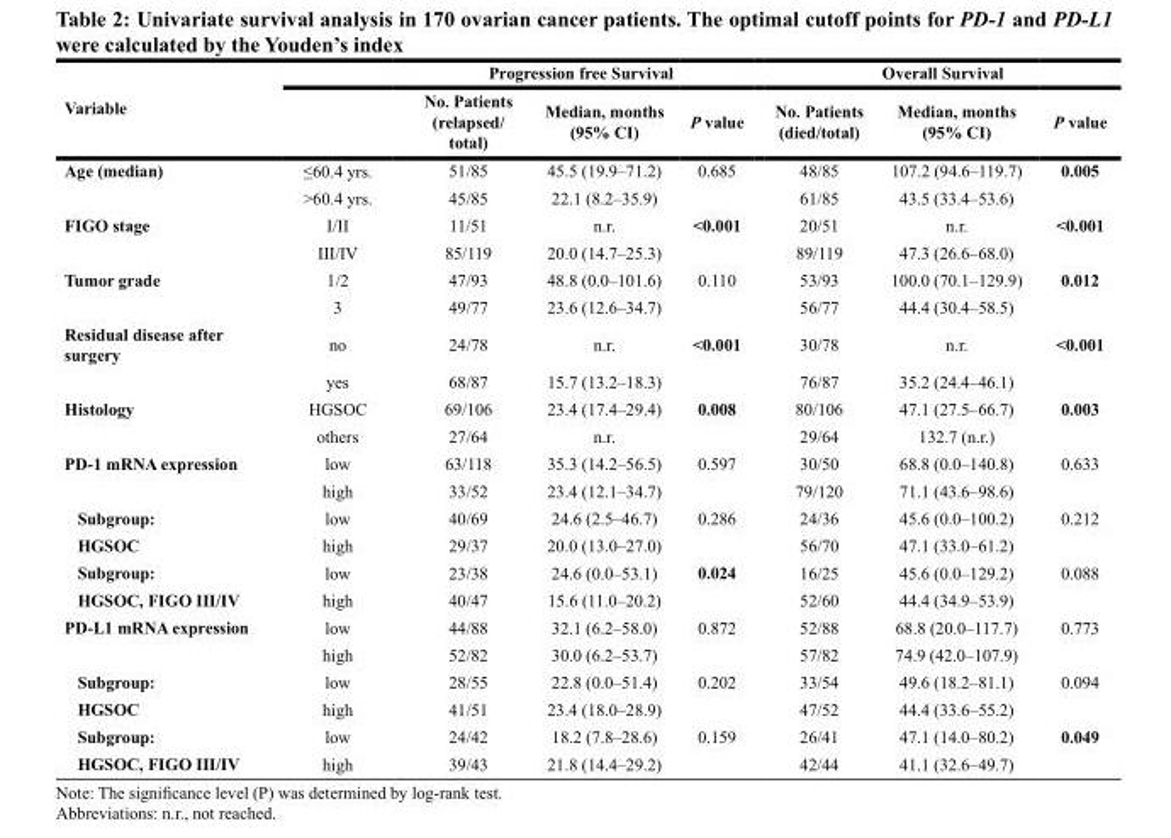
<table><thead><tr><td rowspan="2">Variable</td><td rowspan="2"></td><td colspan="3">Progression free Survival</td><td colspan="3">Overall Survival</td></tr><tr><td>No. Patients (relapsed/ total)</td><td>Median, months (95% CI)</td><td>P value</td><td>No. Patients (died/total)</td><td>Median, months (95% CI)</td><td>P value</td></tr></thead><tbody><tr><td rowspan="2">Age (median)</td><td>≤60.4 yrs.</td><td>51/85</td><td>45.5 (19.9–71.2)</td><td>0.685</td><td>48/85</td><td>107.2 (94.6–119.7)</td><td>0.005</td></tr><tr><td>&gt;60.4 yrs.</td><td>45/85</td><td>22.1 (8.2–35.9)</td><td></td><td>61/85</td><td>43.5 (33.4–53.6)</td><td></td></tr><tr><td rowspan="2">FIGO stage</td><td>I/II</td><td>11/51</td><td>n.r.</td><td>&lt;0.001</td><td>20/51</td><td>n.r.</td><td>&lt;0.001</td></tr><tr><td>III/IV</td><td>85/119</td><td>20.0 (14.7–25.3)</td><td></td><td>89/119</td><td>47.3 (26.6–68.0)</td><td></td></tr><tr><td rowspan="2">Tumor grade</td><td>1/2</td><td>47/93</td><td>48.8 (0.0–101.6)</td><td>0.110</td><td>53/93</td><td>100.0 (70.1–129.9)</td><td>0.012</td></tr><tr><td>3</td><td>49/77</td><td>23.6 (12.6–34.7)</td><td></td><td>56/77</td><td>44.4 (30.4–58.5)</td><td></td></tr><tr><td rowspan="2">Residual disease after surgery</td><td>no</td><td>24/78</td><td>n.r.</td><td>&lt;0.001</td><td>30/78</td><td>n.r.</td><td>&lt;0.001</td></tr><tr><td>yes</td><td>68/87</td><td>15.7 (13.2–18.3)</td><td></td><td>76/87</td><td>35.2 (24.4–46.1)</td><td></td></tr><tr><td rowspan="2">Histology</td><td>HGSOC</td><td>69/106</td><td>23.4 (17.4–29.4)</td><td>0.008</td><td>80/106</td><td>47.1 (27.5–66.7)</td><td>0.003</td></tr><tr><td>others</td><td>27/64</td><td>n.r.</td><td></td><td>29/64</td><td>132.7 (n.r.)</td><td></td></tr><tr><td rowspan="2">PD-1 mRNA expression</td><td>low</td><td>63/118</td><td>35.3 (14.2–56.5)</td><td>0.597</td><td>30/50</td><td>68.8 (0.0–140.8)</td><td>0.633</td></tr><tr><td>high</td><td>33/52</td><td>23.4 (12.1–34.7)</td><td></td><td>79/120</td><td>71.1 (43.6–98.6)</td><td></td></tr><tr><td>Subgroup:</td><td>low</td><td>40/69</td><td>24.6 (2.5–46.7)</td><td>0.286</td><td>24/36</td><td>45.6 (0.0–100.2)</td><td>0.212</td></tr><tr><td>HGSOC</td><td>high</td><td>29/37</td><td>20.0 (13.0–27.0)</td><td></td><td>56/70</td><td>47.1 (33.0–61.2)</td><td></td></tr><tr><td>Subgroup:</td><td>low</td><td>23/38</td><td>24.6 (0.0–53.1)</td><td>0.024</td><td>16/25</td><td>45.6 (0.0–129.2)</td><td>0.088</td></tr><tr><td>HGSOC, FIGO III/IV</td><td>high</td><td>40/47</td><td>15.6 (11.0–20.2)</td><td></td><td>52/60</td><td>44.4 (34.9–53.9)</td><td></td></tr><tr><td rowspan="2">PD-L1 mRNA expression</td><td>low</td><td>44/88</td><td>32.1 (6.2–58.0)</td><td>0.872</td><td>52/88</td><td>68.8 (20.0–117.7)</td><td>0.773</td></tr><tr><td>high</td><td>52/82</td><td>30.0 (6.2–53.7)</td><td></td><td>57/82</td><td>74.9 (42.0–107.9)</td><td></td></tr><tr><td>Subgroup:</td><td>low</td><td>28/55</td><td>22.8 (0.0–51.4)</td><td>0.202</td><td>33/54</td><td>49.6 (18.2–81.1)</td><td>0.094</td></tr><tr><td>HGSOC</td><td>high</td><td>41/51</td><td>23.4 (18.0–28.9)</td><td></td><td>47/52</td><td>44.4 (33.6–55.2)</td><td></td></tr><tr><td>Subgroup:</td><td>low</td><td>24/42</td><td>18.2 (7.8–28.6)</td><td>0.159</td><td>26/41</td><td>47.1 (14.0–80.2)</td><td>0.049</td></tr><tr><td>HGSOC, FIGO III/IV</td><td>high</td><td>39/43</td><td>21.8 (14.4–29.2)</td><td></td><td>42/44</td><td>41.1 (32.6–49.7)</td><td></td></tr></tbody></table>